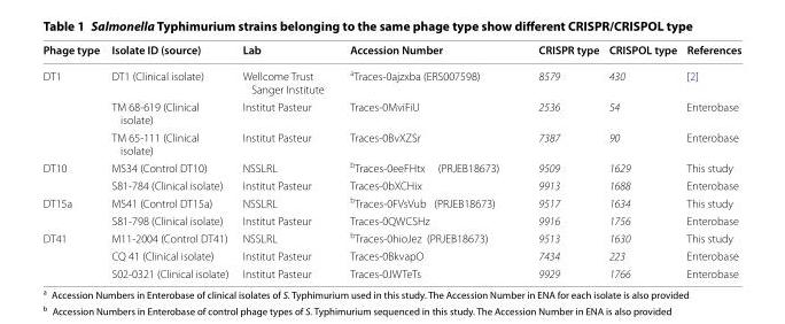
<table><thead><tr><td>Phage type</td><td>Isolate ID (source)</td><td>Lab</td><td>Accession Number</td><td>CRISPR type</td><td>CRISPOL type</td><td>References</td></tr></thead><tbody><tr><td rowspan="3">DT1</td><td>DT1 (Clinical isolate)</td><td>Wellcome Trust Sanger Institute</td><td><sup>a</sup>Traces-0ajzxba (ERS007598)</td><td>8579</td><td>430</td><td>[2]</td></tr><tr><td>TM 68-619 (Clinical isolate)</td><td>Institut Pasteur</td><td>Traces-0MviFiU</td><td>2536</td><td>54</td><td>Enterobase</td></tr><tr><td>TM 65-111 (Clinical isolate)</td><td>Institut Pasteur</td><td>Traces-0BvXZSr</td><td>7387</td><td>90</td><td>Enterobase</td></tr><tr><td rowspan="2">DT10</td><td>MS34 (Control DT10)</td><td>NSSLRL</td><td><sup>b</sup>Traces-0eeFHtx (PRJEB18673)</td><td>9509</td><td>1629</td><td>This study</td></tr><tr><td>S81-784 (Clinical isolate)</td><td>Institut Pasteur</td><td>Traces-0bXCHix</td><td>9913</td><td>1688</td><td>Enterobase</td></tr><tr><td rowspan="2">DT15a</td><td>MS41 (Control DT15a)</td><td>NSSLRL</td><td><sup>b</sup>Traces-0FVsVub (PRJEB18673)</td><td>9517</td><td>1634</td><td>This study</td></tr><tr><td>S81-798 (Clinical isolate)</td><td>Institut Pasteur</td><td>Traces-0QWCSHz</td><td>9916</td><td>1756</td><td>Enterobase</td></tr><tr><td rowspan="3">DT41</td><td>M11-2004 (Control DT41)</td><td>NSSLRL</td><td><sup>b</sup>Traces-0hioJez (PRJEB18673)</td><td>9513</td><td>1630</td><td>This study</td></tr><tr><td>CQ 41 (Clinical isolate)</td><td>Institut Pasteur</td><td>Traces-0BkvapO</td><td>7434</td><td>223</td><td>Enterobase</td></tr><tr><td>S02-0321 (Clinical isolate)</td><td>Institut Pasteur</td><td>Traces-0JWTeTs</td><td>9929</td><td>1766</td><td>Enterobase</td></tr></tbody></table>